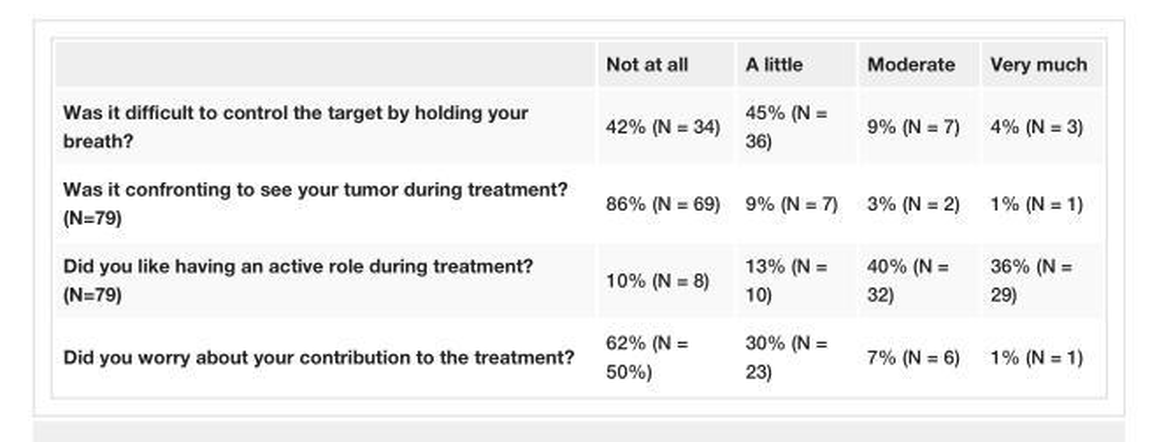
<table><thead><tr><td></td><td>Not at all</td><td>A little</td><td>Moderate</td><td>Very much</td></tr></thead><tbody><tr><td>Was it difficult to control the target by holding your breath?</td><td>42% (N = 34)</td><td>45% (N = 36)</td><td>9% (N = 7)</td><td>4% (N = 3)</td></tr><tr><td>Was it confronting to see your tumor during treatment? (N=79)</td><td>86% (N = 69)</td><td>9% (N = 7)</td><td>3% (N = 2)</td><td>1% (N = 1)</td></tr><tr><td>Did you like having an active role during treatment? (N=79)</td><td>10% (N = 8)</td><td>13% (N = 10)</td><td>40% (N = 32)</td><td>36% (N = 29)</td></tr><tr><td>Did you worry about your contribution to the treatment?</td><td>62% (N = 50%)</td><td>30% (N = 23)</td><td>7% (N = 6)</td><td>1% (N = 1)</td></tr></tbody></table>